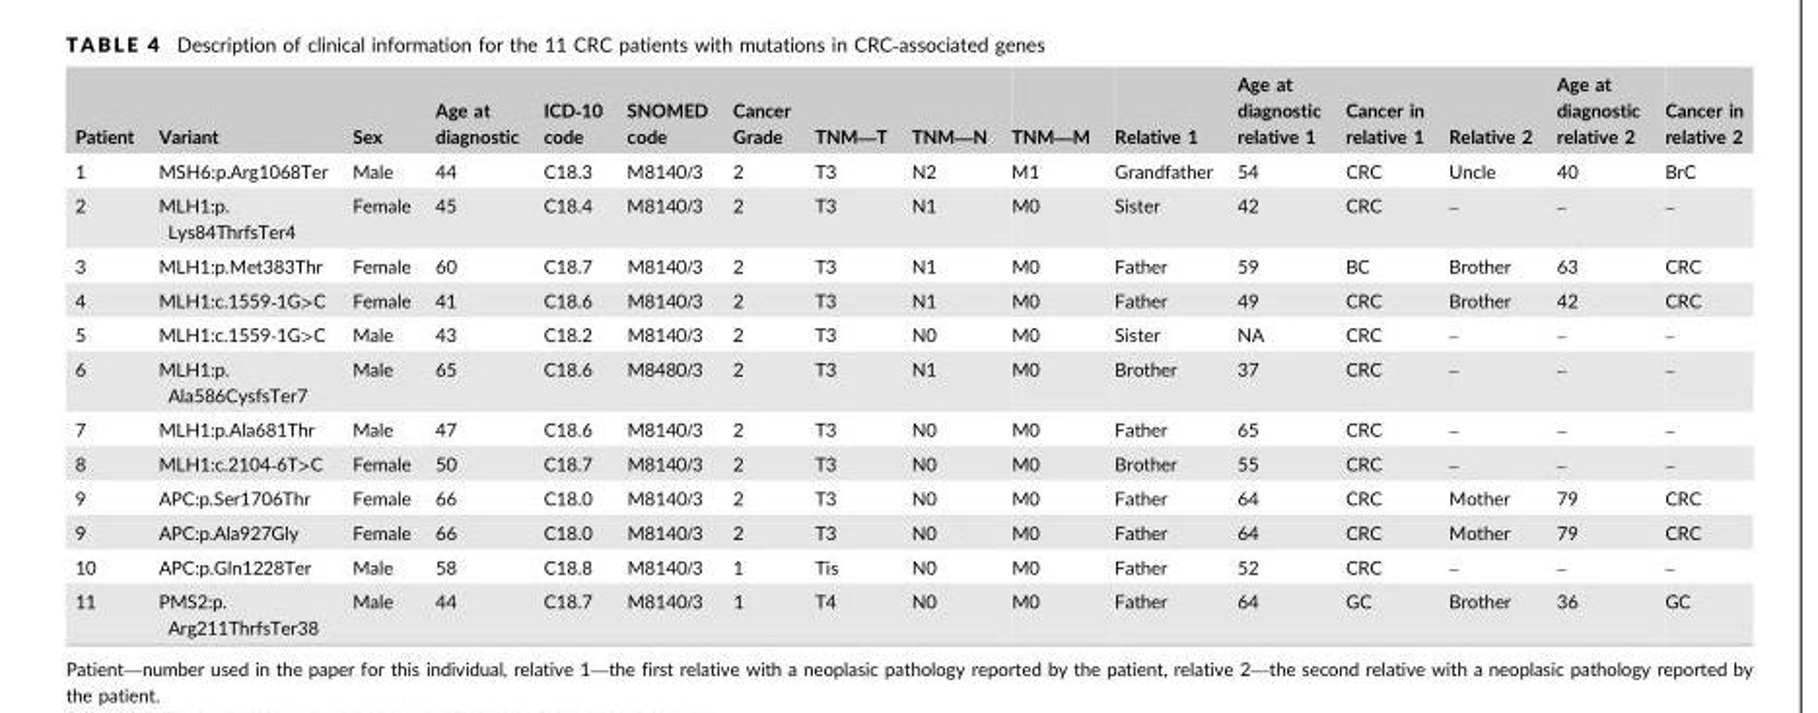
<table><thead><tr><td>Patient</td><td>Variant</td><td>Sex</td><td>Age at diagnostic</td><td>ICD‐10 code</td><td>SNOMED code</td><td>Cancer Grade</td><td>TNM—T</td><td>TNM—N</td><td>TNM—M</td><td>Relative 1</td><td>Age at diagnostic relative 1</td><td>Cancer in relative 1</td><td>Relative 2</td><td>Age at diagnostic relative 2</td><td>Cancer in relative 2</td></tr></thead><tbody><tr><td>1</td><td>MSH6:p.Arg1068Ter</td><td>Male</td><td>44</td><td>C18.3</td><td>M8140/3</td><td>2</td><td>T3</td><td>N2</td><td>M1</td><td>Grandfather</td><td>54</td><td>CRC</td><td>Uncle</td><td>40</td><td>BrC</td></tr><tr><td>2</td><td>MLH1:p. Lys84ThrfsTer4</td><td>Female</td><td>45</td><td>C18.4</td><td>M8140/3</td><td>2</td><td>T3</td><td>N1</td><td>M0</td><td>Sister</td><td>42</td><td>CRC</td><td>–</td><td>–</td><td>–</td></tr><tr><td>3</td><td>MLH1:p.Met383Thr</td><td>Female</td><td>60</td><td>C18.7</td><td>M8140/3</td><td>2</td><td>T3</td><td>N1</td><td>M0</td><td>Father</td><td>59</td><td>BC</td><td>Brother</td><td>63</td><td>CRC</td></tr><tr><td>4</td><td>MLH1:c.1559‐1G&gt;C</td><td>Female</td><td>41</td><td>C18.6</td><td>M8140/3</td><td>2</td><td>T3</td><td>N1</td><td>M0</td><td>Father</td><td>49</td><td>CRC</td><td>Brother</td><td>42</td><td>CRC</td></tr><tr><td>5</td><td>MLH1:c.1559‐1G&gt;C</td><td>Male</td><td>43</td><td>C18.2</td><td>M8140/3</td><td>2</td><td>T3</td><td>N0</td><td>M0</td><td>Sister</td><td>NA</td><td>CRC</td><td>–</td><td>–</td><td>–</td></tr><tr><td>6</td><td>MLH1:p. Ala586CysfsTer7</td><td>Male</td><td>65</td><td>C18.6</td><td>M8480/3</td><td>2</td><td>T3</td><td>N1</td><td>M0</td><td>Brother</td><td>37</td><td>CRC</td><td>–</td><td>–</td><td>–</td></tr><tr><td>7</td><td>MLH1:p.Ala681Thr</td><td>Male</td><td>47</td><td>C18.6</td><td>M8140/3</td><td>2</td><td>T3</td><td>N0</td><td>M0</td><td>Father</td><td>65</td><td>CRC</td><td>–</td><td>–</td><td>–</td></tr><tr><td>8</td><td>MLH1:c.2104‐6T&gt;C</td><td>Female</td><td>50</td><td>C18.7</td><td>M8140/3</td><td>2</td><td>T3</td><td>N0</td><td>M0</td><td>Brother</td><td>55</td><td>CRC</td><td>–</td><td>–</td><td>–</td></tr><tr><td>9</td><td>APC:p.Ser1706Thr</td><td>Female</td><td>66</td><td>C18.0</td><td>M8140/3</td><td>2</td><td>T3</td><td>N0</td><td>M0</td><td>Father</td><td>64</td><td>CRC</td><td>Mother</td><td>79</td><td>CRC</td></tr><tr><td>9</td><td>APC:p.Ala927Gly</td><td>Female</td><td>66</td><td>C18.0</td><td>M8140/3</td><td>2</td><td>T3</td><td>N0</td><td>M0</td><td>Father</td><td>64</td><td>CRC</td><td>Mother</td><td>79</td><td>CRC</td></tr><tr><td>10</td><td>APC:p.Gln1228Ter</td><td>Male</td><td>58</td><td>C18.8</td><td>M8140/3</td><td>1</td><td>Tis</td><td>N0</td><td>M0</td><td>Father</td><td>52</td><td>CRC</td><td>–</td><td>–</td><td>–</td></tr><tr><td>11</td><td>PMS2:p. Arg211ThrfsTer38</td><td>Male</td><td>44</td><td>C18.7</td><td>M8140/3</td><td>1</td><td>T4</td><td>N0</td><td>M0</td><td>Father</td><td>64</td><td>GC</td><td>Brother</td><td>36</td><td>GC</td></tr></tbody></table>